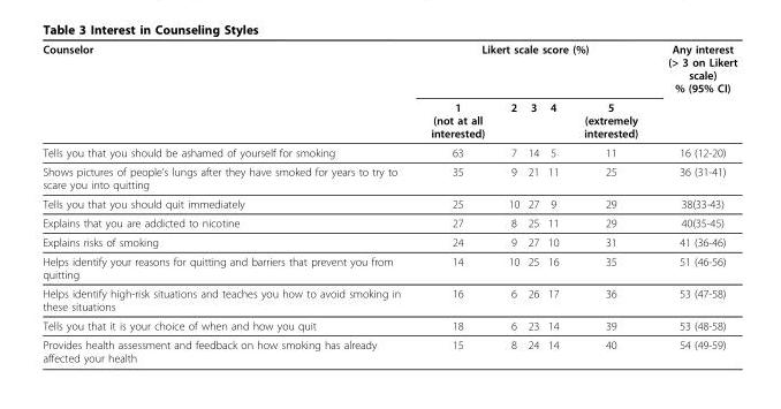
<table><thead><tr><td rowspan="2">Counselor</td><td colspan="5">Likert scale score (%)</td><td rowspan="2">Any interest (&gt; 3 on Likert scale) % (95% CI)</td></tr><tr><td>1 (not at all interested)</td><td>2</td><td>3</td><td>4</td><td>5 (extremely interested)</td></tr></thead><tbody><tr><td>Tells you that you should be ashamed of yourself for smoking</td><td>63</td><td>7</td><td>14</td><td>5</td><td>11</td><td>16 (12-20)</td></tr><tr><td>Shows pictures of people’s lungs after they have smoked for years to try to scare you into quitting</td><td>35</td><td>9</td><td>21</td><td>11</td><td>25</td><td>36 (31-41)</td></tr><tr><td>Tells you that you should quit immediately</td><td>25</td><td>10</td><td>27</td><td>9</td><td>29</td><td>38(33-43)</td></tr><tr><td>Explains that you are addicted to nicotine</td><td>27</td><td>8</td><td>25</td><td>11</td><td>29</td><td>40(35-45)</td></tr><tr><td>Explains risks of smoking</td><td>24</td><td>9</td><td>27</td><td>10</td><td>31</td><td>41 (36-46)</td></tr><tr><td>Helps identify your reasons for quitting and barriers that prevent you from quitting</td><td>14</td><td>10</td><td>25</td><td>16</td><td>35</td><td>51 (46-56)</td></tr><tr><td>Helps identify high-risk situations and teaches you how to avoid smoking in these situations</td><td>16</td><td>6</td><td>26</td><td>17</td><td>36</td><td>53 (47-58)</td></tr><tr><td>Tells you that it is your choice of when and how you quit</td><td>18</td><td>6</td><td>23</td><td>14</td><td>39</td><td>53 (48-58)</td></tr><tr><td>Provides health assessment and feedback on how smoking has already affected your health</td><td>15</td><td>8</td><td>24</td><td>14</td><td>40</td><td>54 (49-59)</td></tr></tbody></table>